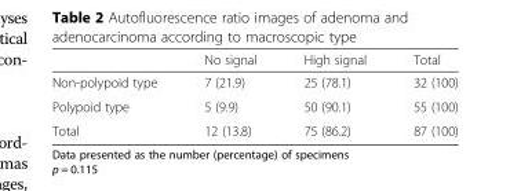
<table><thead><tr><td></td><td>No signal</td><td>High signal</td><td>Total</td></tr></thead><tbody><tr><td>Non-polypoid type</td><td>7 (21.9)</td><td>25 (78.1)</td><td>32 (100)</td></tr><tr><td>Polypoid type</td><td>5 (9.9)</td><td>50 (90.1)</td><td>55 (100)</td></tr><tr><td>Total</td><td>12 (13.8)</td><td>75 (86.2)</td><td>87 (100)</td></tr></tbody></table>